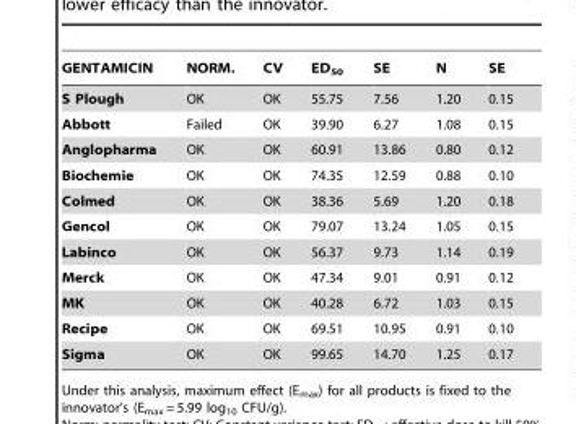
<table><thead><tr><td>GENTAMICIN</td><td>NORM.</td><td>CV</td><td>ED<sub>50</sub></td><td>SE</td><td>N</td><td>SE</td></tr></thead><tbody><tr><td>S Plough</td><td>OK</td><td>OK</td><td>55.75</td><td>7.56</td><td>1.20</td><td>0.15</td></tr><tr><td>Abbott</td><td>Failed</td><td>OK</td><td>39.90</td><td>6.27</td><td>1.08</td><td>0.15</td></tr><tr><td>Anglopharma</td><td>OK</td><td>OK</td><td>60.91</td><td>13.86</td><td>0.80</td><td>0.12</td></tr><tr><td>Biochemie</td><td>OK</td><td>OK</td><td>74.35</td><td>12.59</td><td>0.88</td><td>0.10</td></tr><tr><td>Colmed</td><td>OK</td><td>OK</td><td>38.36</td><td>5.69</td><td>1.20</td><td>0.18</td></tr><tr><td>Gencol</td><td>OK</td><td>OK</td><td>79.07</td><td>13.24</td><td>1.05</td><td>0.15</td></tr><tr><td>Labinco</td><td>OK</td><td>OK</td><td>56.37</td><td>9.73</td><td>1.14</td><td>0.19</td></tr><tr><td>Merck</td><td>OK</td><td>OK</td><td>47.34</td><td>9.01</td><td>0.91</td><td>0.12</td></tr><tr><td>MK</td><td>OK</td><td>OK</td><td>40.28</td><td>6.72</td><td>1.03</td><td>0.15</td></tr><tr><td>Recipe</td><td>OK</td><td>OK</td><td>69.51</td><td>10.95</td><td>0.91</td><td>0.10</td></tr><tr><td>Sigma</td><td>OK</td><td>OK</td><td>99.65</td><td>14.70</td><td>1.25</td><td>0.17</td></tr></tbody></table>